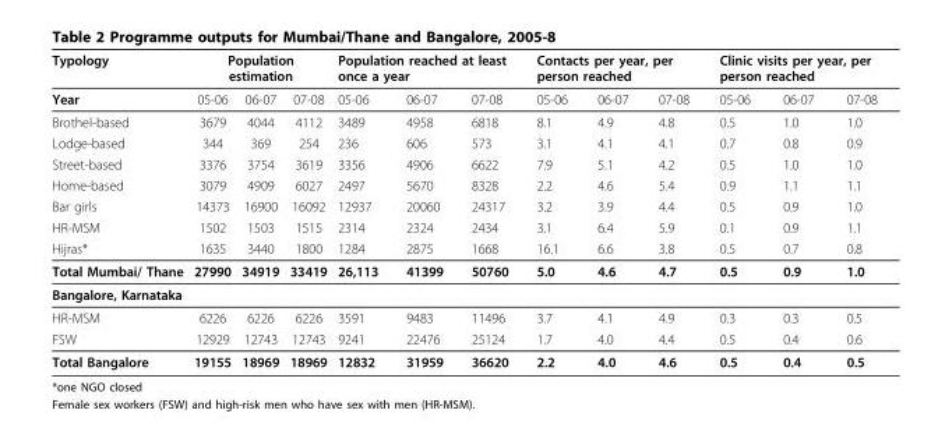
<table><thead><tr><td rowspan="2">Typology Year</td><td colspan="3">Population estimation</td><td colspan="3">Population reached at least once a year</td><td colspan="3">Contacts per year, per person reached</td><td colspan="3">Clinic visits per year, per person reached</td></tr><tr><td>05-06</td><td>06-07</td><td>07-08</td><td>05-06</td><td>06-07</td><td>07-08</td><td>05-06</td><td>06-07</td><td>07-08</td><td>05-06</td><td>06-07</td><td>07-08</td></tr></thead><tbody><tr><td>Brothel-based</td><td>3679</td><td>4044</td><td>4112</td><td>3489</td><td>4958</td><td>6818</td><td>8.1</td><td>4.9</td><td>4.8</td><td>0.5</td><td>1.0</td><td>1.0</td></tr><tr><td>Lodge-based</td><td>344</td><td>369</td><td>254</td><td>236</td><td>606</td><td>573</td><td>3.1</td><td>4.1</td><td>4.1</td><td>0.7</td><td>0.8</td><td>0.9</td></tr><tr><td>Street-based</td><td>3376</td><td>3754</td><td>3619</td><td>3356</td><td>4906</td><td>6622</td><td>7.9</td><td>5.1</td><td>4.2</td><td>0.5</td><td>1.0</td><td>1.0</td></tr><tr><td>Home-based</td><td>3079</td><td>4909</td><td>6027</td><td>2497</td><td>5670</td><td>8328</td><td>2.2</td><td>4.6</td><td>5.4</td><td>0.9</td><td>1.1</td><td>1.1</td></tr><tr><td>Bar girls</td><td>14373</td><td>16900</td><td>16092</td><td>12937</td><td>20060</td><td>24317</td><td>3.2</td><td>3.9</td><td>4.4</td><td>0.5</td><td>0.9</td><td>1.0</td></tr><tr><td>HR-MSM</td><td>1502</td><td>1503</td><td>1515</td><td>2314</td><td>2324</td><td>2434</td><td>3.1</td><td>6.4</td><td>5.9</td><td>0.1</td><td>0.9</td><td>1.1</td></tr><tr><td>Hijras*</td><td>1635</td><td>3440</td><td>1800</td><td>1284</td><td>2875</td><td>1668</td><td>16.1</td><td>6.6</td><td>3.8</td><td>0.5</td><td>0.7</td><td>0.8</td></tr><tr><td>Total Mumbai/ Thane</td><td>27990</td><td>34919</td><td>33419</td><td>26,113</td><td>41399</td><td>50760</td><td>5.0</td><td>4.6</td><td>4.7</td><td>0.5</td><td>0.9</td><td>1.0</td></tr><tr><td colspan="13">Bangalore, Karnataka</td></tr><tr><td>HR-MSM</td><td>6226</td><td>6226</td><td>6226</td><td>3591</td><td>9483</td><td>11496</td><td>3.7</td><td>4.1</td><td>4.9</td><td>0.3</td><td>0.3</td><td>0.5</td></tr><tr><td>FSW</td><td>12929</td><td>12743</td><td>12743</td><td>9241</td><td>22476</td><td>25124</td><td>1.7</td><td>4.0</td><td>4.4</td><td>0.5</td><td>0.4</td><td>0.6</td></tr><tr><td>Total Bangalore</td><td>19155</td><td>18969</td><td>18969</td><td>12832</td><td>31959</td><td>36620</td><td>2.2</td><td>4.0</td><td>4.6</td><td>0.5</td><td>0.4</td><td>0.5</td></tr></tbody></table>